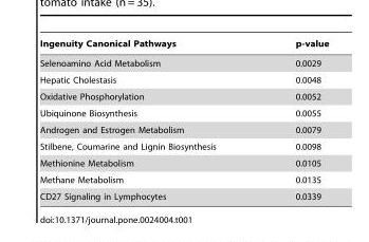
<table><thead><tr><td>Ingenuity Canonical Pathways</td><td>p-value</td></tr></thead><tbody><tr><td>Selenoamino Acid Metabolism</td><td>0.0029</td></tr><tr><td>Hepatic Cholestasis</td><td>0.0048</td></tr><tr><td>Oxidative Phosphorylation</td><td>0.0052</td></tr><tr><td>Ubiquinone Biosynthesis</td><td>0.0055</td></tr><tr><td>Androgen and Estrogen Metabolism</td><td>0.0079</td></tr><tr><td>Stilbene, Coumarine and Lignin Biosynthesis</td><td>0.0098</td></tr><tr><td>Methionine Metabolism</td><td>0.0105</td></tr><tr><td>Methane Metabolism</td><td>0.0135</td></tr><tr><td>CD27 Signaling in Lymphocytes</td><td>0.0339</td></tr></tbody></table>